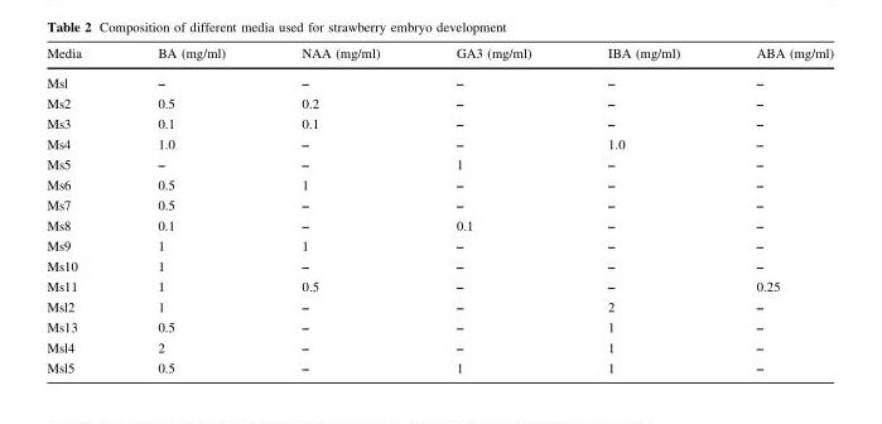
<table><thead><tr><td>Media</td><td>BA (mg/ml)</td><td>NAA (mg/ml)</td><td>GA3 (mg/ml)</td><td>IBA (mg/ml)</td><td>ABA (mg/ml)</td></tr></thead><tbody><tr><td>Msl</td><td>–</td><td>–</td><td>–</td><td>–</td><td>–</td></tr><tr><td>Ms2</td><td>0.5</td><td>0.2</td><td>–</td><td>–</td><td>–</td></tr><tr><td>Ms3</td><td>0.1</td><td>0.1</td><td>–</td><td>–</td><td>–</td></tr><tr><td>Ms4</td><td>1.0</td><td>–</td><td>–</td><td>1.0</td><td>–</td></tr><tr><td>Ms5</td><td>–</td><td>–</td><td>1</td><td>–</td><td>–</td></tr><tr><td>Ms6</td><td>0.5</td><td>1</td><td>–</td><td>–</td><td>–</td></tr><tr><td>Ms7</td><td>0.5</td><td>–</td><td>–</td><td>–</td><td>–</td></tr><tr><td>Ms8</td><td>0.1</td><td>–</td><td>0.1</td><td>–</td><td>–</td></tr><tr><td>Ms9</td><td>1</td><td>1</td><td>–</td><td>–</td><td>–</td></tr><tr><td>Ms10</td><td>1</td><td>–</td><td>–</td><td>–</td><td>–</td></tr><tr><td>Ms11</td><td>1</td><td>0.5</td><td>–</td><td>–</td><td>0.25</td></tr><tr><td>Msl2</td><td>1</td><td>–</td><td>–</td><td>2</td><td>–</td></tr><tr><td>Ms13</td><td>0.5</td><td>–</td><td>–</td><td>1</td><td>–</td></tr><tr><td>Msl4</td><td>2</td><td>–</td><td>–</td><td>1</td><td>–</td></tr><tr><td>Msl5</td><td>0.5</td><td>–</td><td>1</td><td>1</td><td>–</td></tr></tbody></table>